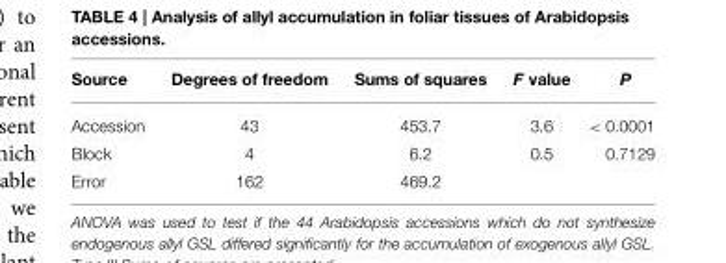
<table><thead><tr><td>Source</td><td>Degrees of freedom</td><td>Sums of squares</td><td>F value</td><td>P</td></tr></thead><tbody><tr><td>Accession</td><td>43</td><td>453.7</td><td>3.6</td><td>&lt; 0.0001</td></tr><tr><td>Block</td><td>4</td><td>6.2</td><td>0.5</td><td>0.7129</td></tr><tr><td>Error</td><td>162</td><td>469.2</td><td></td><td></td></tr></tbody></table>